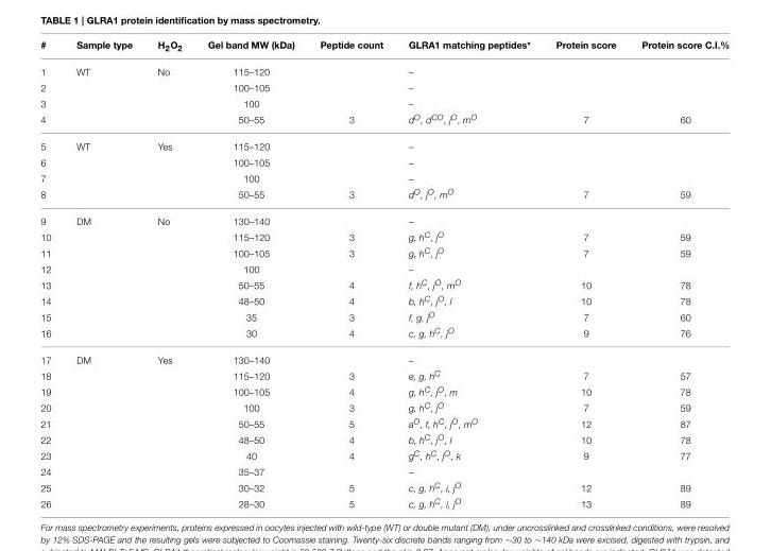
<table><thead><tr><td>#</td><td>Sample type</td><td>H<sub>2</sub>O<sub>2</sub></td><td>Gel band MW (kDa)</td><td>Peptide count</td><td>GLRA1 matching peptides*</td><td>Protein score</td><td>Protein score C.I.%</td></tr></thead><tbody><tr><td>1</td><td>WT</td><td>No</td><td>115–120</td><td></td><td>–</td><td></td><td></td></tr><tr><td>2</td><td></td><td></td><td>100–105</td><td></td><td>–</td><td></td><td></td></tr><tr><td>3</td><td></td><td></td><td>100</td><td></td><td>–</td><td></td><td></td></tr><tr><td>4</td><td></td><td></td><td>50–55</td><td>3</td><td>dO, dCO, jO, mO</td><td>7</td><td>60</td></tr><tr><td>5</td><td>WT</td><td>Yes</td><td>115–120</td><td></td><td>–</td><td></td><td></td></tr><tr><td>6</td><td></td><td></td><td>100–105</td><td></td><td>–</td><td></td><td></td></tr><tr><td>7</td><td></td><td></td><td>100</td><td></td><td>–</td><td></td><td></td></tr><tr><td>8</td><td></td><td></td><td>50–55</td><td>3</td><td>dO, jO, mO</td><td>7</td><td>59</td></tr><tr><td>9</td><td>DM</td><td>No</td><td>130–140</td><td></td><td>–</td><td></td><td></td></tr><tr><td>10</td><td></td><td></td><td>115–120</td><td>3</td><td>g, hC, jO</td><td>7</td><td>59</td></tr><tr><td>11</td><td></td><td></td><td>100–105</td><td>3</td><td>g, hC, jO</td><td>7</td><td>59</td></tr><tr><td>12</td><td></td><td></td><td>100</td><td></td><td>–</td><td></td><td></td></tr><tr><td>13</td><td></td><td></td><td>50–55</td><td>4</td><td>f, hC, jO, mO</td><td>10</td><td>78</td></tr><tr><td>14</td><td></td><td></td><td>48–50</td><td>4</td><td>b, hC, jO, l</td><td>10</td><td>78</td></tr><tr><td>15</td><td></td><td></td><td>35</td><td>3</td><td>f, g, jO</td><td>7</td><td>60</td></tr><tr><td>16</td><td></td><td></td><td>30</td><td>4</td><td>c, g, hC, jO</td><td>9</td><td>76</td></tr><tr><td>17</td><td>DM</td><td>Yes</td><td>130–140</td><td></td><td>–</td><td></td><td></td></tr><tr><td>18</td><td></td><td></td><td>115–120</td><td>3</td><td>e, g, hC</td><td>7</td><td>57</td></tr><tr><td>19</td><td></td><td></td><td>100–105</td><td>4</td><td>g, hC, jO, m</td><td>10</td><td>78</td></tr><tr><td>20</td><td></td><td></td><td>100</td><td>3</td><td>g, hC, jO</td><td>7</td><td>59</td></tr><tr><td>21</td><td></td><td></td><td>50–55</td><td>5</td><td>aO, f, hC, jO, mO</td><td>12</td><td>87</td></tr><tr><td>22</td><td></td><td></td><td>48–50</td><td>4</td><td>b, hC, jO, l</td><td>10</td><td>78</td></tr><tr><td>23</td><td></td><td></td><td>40</td><td>4</td><td>gC, hC, jO, k</td><td>9</td><td>77</td></tr><tr><td>24</td><td></td><td></td><td>35–37</td><td></td><td>–</td><td></td><td></td></tr><tr><td>25</td><td></td><td></td><td>30–32</td><td>5</td><td>c, g, hC, i, jO</td><td>12</td><td>89</td></tr><tr><td>26</td><td></td><td></td><td>28–30</td><td>5</td><td>c, g, hC, i, jO</td><td>13</td><td>89</td></tr></tbody></table>